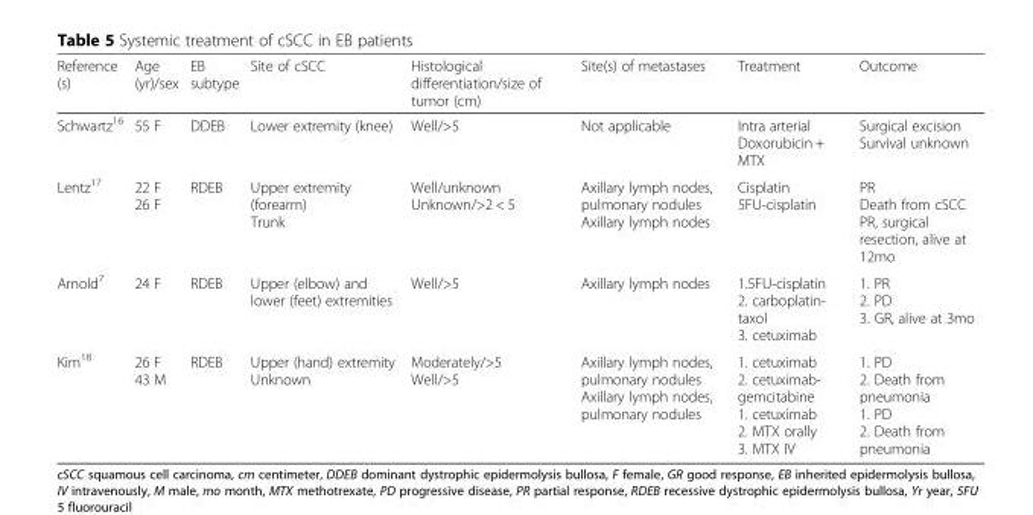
<table><thead><tr><td>Reference (s)</td><td>Age (yr)/sex</td><td>EB subtype</td><td>Site of cSCC</td><td>Histological differentiation/size of tumor (cm)</td><td>Site(s) of metastases</td><td>Treatment</td><td>Outcome</td></tr></thead><tbody><tr><td>Schwartz<sup>16</sup></td><td>55 F</td><td>DDEB</td><td>Lower extremity (knee)</td><td>Well/&gt;5</td><td>Not applicable</td><td>Intra arterial Doxorubicin + MTX</td><td>Surgical excision Survival unknown</td></tr><tr><td>Lentz<sup>17</sup></td><td>22 F 26 F</td><td>RDEB</td><td>Upper extremity (forearm) Trunk</td><td>Well/unknown Unknown/&gt;2 &lt; 5</td><td>Axillary lymph nodes, pulmonary nodules Axillary lymph nodes</td><td>Cisplatin 5FU-cisplatin</td><td>PR Death from cSCC PR, surgical resection, alive at 12mo</td></tr><tr><td>Arnold<sup>7</sup></td><td>24 F</td><td>RDEB</td><td>Upper (elbow) and lower (feet) extremities</td><td>Well/&gt;5</td><td>Axillary lymph nodes</td><td>1.5FU-cisplatin 2. carboplatin- taxol 3. cetuximab</td><td>1. PR 2. PD 3. GR, alive at 3mo</td></tr><tr><td>Kim<sup>18</sup></td><td>26 F 43 M</td><td>RDEB</td><td>Upper (hand) extremity Unknown</td><td>Moderately/&gt;5 Well/&gt;5</td><td>Axillary lymph nodes, pulmonary nodules Axillary lymph nodes, pulmonary nodules</td><td>1. cetuximab 2. cetuximab- gemcitabine 1. cetuximab 2. MTX orally 3. MTX IV</td><td>1. PD 2. Death from pneumonia 1. PD 2. Death from pneumonia</td></tr></tbody></table>